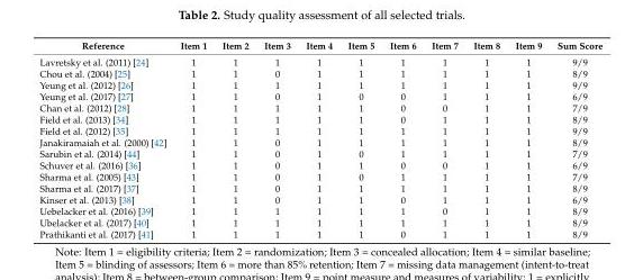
<table><thead><tr><td>Reference</td><td>Item 1</td><td>Item 2</td><td>Item 3</td><td>Item 4</td><td>Item 5</td><td>Item 6</td><td>Item 7</td><td>Item 8</td><td>Item 9</td><td>Sum Score</td></tr></thead><tbody><tr><td>Lavretsky et al. (2011) [24]</td><td>1</td><td>1</td><td>1</td><td>1</td><td>1</td><td>1</td><td>1</td><td>1</td><td>1</td><td>9/9</td></tr><tr><td>Chou et al. (2004) [25]</td><td>1</td><td>1</td><td>0</td><td>1</td><td>1</td><td>1</td><td>1</td><td>1</td><td>1</td><td>8/9</td></tr><tr><td>Yeung et al. (2012) [26]</td><td>1</td><td>1</td><td>1</td><td>1</td><td>1</td><td>1</td><td>1</td><td>1</td><td>1</td><td>9/9</td></tr><tr><td>Yeung et al. (2017) [27]</td><td>1</td><td>1</td><td>0</td><td>1</td><td>0</td><td>0</td><td>1</td><td>1</td><td>1</td><td>6/9</td></tr><tr><td>Chan et al. (2012) [28]</td><td>1</td><td>1</td><td>1</td><td>1</td><td>1</td><td>0</td><td>0</td><td>1</td><td>1</td><td>7/9</td></tr><tr><td>Field et al. (2013) [34]</td><td>1</td><td>1</td><td>1</td><td>1</td><td>1</td><td>0</td><td>1</td><td>1</td><td>1</td><td>8/9</td></tr><tr><td>Field et al. (2012) [35]</td><td>1</td><td>1</td><td>1</td><td>1</td><td>1</td><td>1</td><td>1</td><td>1</td><td>1</td><td>9/9</td></tr><tr><td>Janakiramaiah et al. (2000) [42]</td><td>1</td><td>1</td><td>0</td><td>1</td><td>1</td><td>1</td><td>1</td><td>1</td><td>1</td><td>8/9</td></tr><tr><td>Sarubin et al. (2014) [44]</td><td>1</td><td>1</td><td>0</td><td>1</td><td>0</td><td>1</td><td>1</td><td>1</td><td>1</td><td>7/9</td></tr><tr><td>Schuver et al. (2016) [36]</td><td>1</td><td>1</td><td>0</td><td>1</td><td>1</td><td>0</td><td>0</td><td>1</td><td>1</td><td>6/9</td></tr><tr><td>Sharma et al. (2005) [43]</td><td>1</td><td>1</td><td>0</td><td>1</td><td>0</td><td>1</td><td>1</td><td>1</td><td>1</td><td>7/9</td></tr><tr><td>Sharma et al. (2017) [37]</td><td>1</td><td>1</td><td>0</td><td>1</td><td>1</td><td>1</td><td>1</td><td>1</td><td>1</td><td>8/9</td></tr><tr><td>Kinser et al. (2013) [38]</td><td>1</td><td>1</td><td>0</td><td>1</td><td>1</td><td>0</td><td>1</td><td>1</td><td>1</td><td>6/9</td></tr><tr><td>Uebelacker et al. (2016) [39]</td><td>1</td><td>1</td><td>1</td><td>1</td><td>1</td><td>1</td><td>0</td><td>1</td><td>1</td><td>8/9</td></tr><tr><td>Ubelacker et al. (2017) [40]</td><td>1</td><td>1</td><td>1</td><td>1</td><td>1</td><td>1</td><td>1</td><td>1</td><td>1</td><td>8/9</td></tr><tr><td>Prathikanti et al. (2017) [41]</td><td>1</td><td>1</td><td>1</td><td>1</td><td>1</td><td>0</td><td>1</td><td>1</td><td>1</td><td>8/9</td></tr></tbody></table>